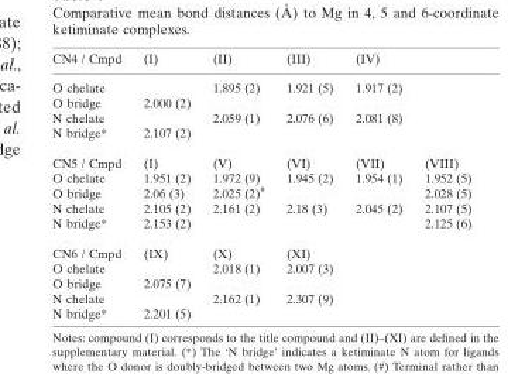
<table><thead><tr><td>CN4 / Cmpd</td><td>(I)</td><td>(II)</td><td>(III)</td><td>(IV)</td><td></td></tr></thead><tbody><tr><td>O chelate</td><td></td><td>1.895 (2)</td><td>1.921 (5)</td><td>1.917 (2)</td><td></td></tr><tr><td>O bridge</td><td>2.000 (2)</td><td></td><td></td><td></td><td></td></tr><tr><td>N chelate</td><td></td><td>2.059 (1)</td><td>2.076 (6)</td><td>2.081 (8)</td><td></td></tr><tr><td>N bridge*</td><td>2.107 (2)</td><td></td><td></td><td></td><td></td></tr><tr><td>CN5 / Cmpd</td><td>(I)</td><td>(V)</td><td>(VI)</td><td>(VII)</td><td>(VIII)</td></tr><tr><td>O chelate</td><td>1.951 (2)</td><td>1.972 (9)</td><td>1.945 (2)</td><td>1.954 (1)</td><td>1.952 (5)</td></tr><tr><td>O bridge</td><td>2.06 (3)</td><td>2.025 (2)<sup>#</sup></td><td></td><td></td><td>2.028 (5)</td></tr><tr><td>N chelate</td><td>2.105 (2)</td><td>2.161 (2)</td><td>2.18 (3)</td><td>2.045 (2)</td><td>2.107 (5)</td></tr><tr><td>N bridge*</td><td>2.153 (2)</td><td></td><td></td><td></td><td>2.125 (6)</td></tr><tr><td>CN6 / Cmpd</td><td>(IX)</td><td>(X)</td><td>(XI)</td><td></td><td></td></tr><tr><td>O chelate</td><td></td><td>2.018 (1)</td><td>2.007 (3)</td><td></td><td></td></tr><tr><td>O bridge</td><td>2.075 (7)</td><td></td><td></td><td></td><td></td></tr><tr><td>N chelate</td><td></td><td>2.162 (1)</td><td>2.307 (9)</td><td></td><td></td></tr><tr><td>N bridge*</td><td>2.201 (5)</td><td></td><td></td><td></td><td></td></tr></tbody></table>